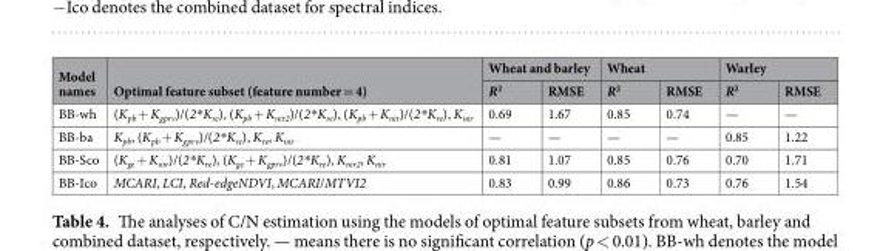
<table><thead><tr><td rowspan="2">Model names</td><td rowspan="2">Optimal feature subset (feature number = 4)</td><td colspan="2">Wheat and barley</td><td colspan="2">Wheat</td><td colspan="2">Warley</td></tr><tr><td>R<sup>2</sup></td><td>RMSE</td><td>R<sup>2</sup></td><td>RMSE</td><td>R<sup>2</sup></td><td>RMSE</td></tr></thead><tbody><tr><td>BB-wh</td><td>(Kpb + Kgprv)/(2*Kre), (Kpb + Knir2)/(2*Kre), (Kpb + Knir)/(2*Kre), Knir</td><td>0.69</td><td>1.67</td><td>0.85</td><td>0.74</td><td>—</td><td>—</td></tr><tr><td>BB-ba</td><td>K<sub>pb</sub>, (K<sub>pb</sub> + K<sub>gprv</sub>)/(2*K<sub>re</sub>), K<sub>re</sub>, K<sub>nir</sub></td><td>—</td><td>—</td><td>—</td><td>—</td><td>0.85</td><td>1.22</td></tr><tr><td>BB-Sco</td><td>(K<sub>ge</sub> + K<sub>nir</sub>)/(2*K<sub>re</sub>), (K<sub>ge</sub> + K<sub>gprv</sub>)/(2*K<sub>re</sub>), K<sub>nir2</sub>, K<sub>nir</sub></td><td>0.81</td><td>1.07</td><td>0.85</td><td>0.76</td><td>0.70</td><td>1.71</td></tr><tr><td>BB-Ico</td><td>MCARI, LCI, Red-edgeNDVI, MCARI/MTVI2</td><td>0.83</td><td>0.99</td><td>0.86</td><td>0.73</td><td>0.76</td><td>1.54</td></tr></tbody></table>